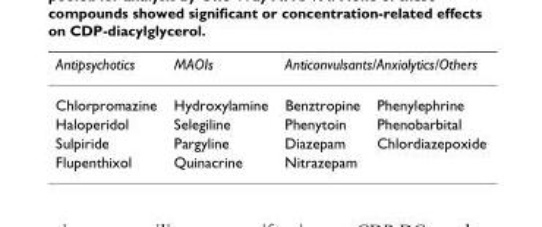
<table><thead><tr><td rowspan="2">Antipsychotics Chlorpromazine</td><td rowspan="2">MAOIs Hydroxylamine</td><td colspan="2">Anticonvulsants/Anxiolytics/Others</td></tr><tr><td>Benztropine</td><td>Phenylephrine</td></tr></thead><tbody><tr><td>Haloperidol</td><td>Selegiline</td><td>Phenytoin</td><td>Phenobarbital</td></tr><tr><td>Sulpiride</td><td>Pargyline</td><td>Diazepam</td><td>Chlordiazepoxide</td></tr><tr><td>Flupenthixol</td><td>Quinacrine</td><td>Nitrazepam</td><td></td></tr></tbody></table>